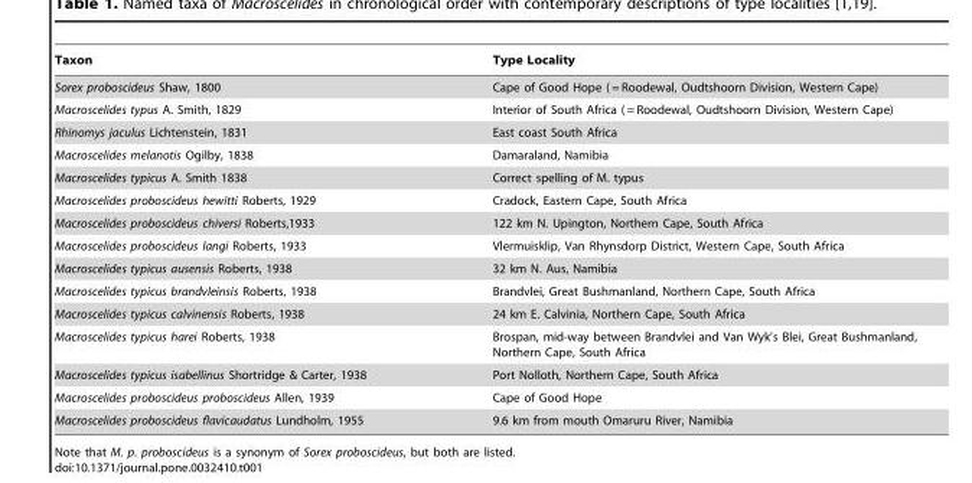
<table><thead><tr><td>Taxon</td><td>Type Locality</td></tr></thead><tbody><tr><td>Sorex proboscideus Shaw, 1800</td><td>Cape of Good Hope ( = Roodewal, Oudtshoorn Division, Western Cape)</td></tr><tr><td>Macroscelides typus A. Smith, 1829</td><td>Interior of South Africa ( = Roodewal, Oudtshoorn Division, Western Cape)</td></tr><tr><td>Rhinomys jaculus Lichtenstein, 1831</td><td>East coast South Africa</td></tr><tr><td>Macroscelides melanotis Ogilby, 1838</td><td>Damaraland, Namibia</td></tr><tr><td>Macroscelides typicus A. Smith 1838</td><td>Correct spelling of M. typus</td></tr><tr><td>Macroscelides proboscideus hewitti Roberts, 1929</td><td>Cradock, Eastern Cape, South Africa</td></tr><tr><td>Macroscelides proboscideus chiversi Roberts,1933</td><td>122 km N. Upington, Northern Cape, South Africa</td></tr><tr><td>Macroscelides proboscideus langi Roberts, 1933</td><td>Vlermuisklip, Van Rhynsdorp District, Western Cape, South Africa</td></tr><tr><td>Macroscelides typicus ausensis Roberts, 1938</td><td>32 km N. Aus, Namibia</td></tr><tr><td>Macroscelides typicus brandvleinsis Roberts, 1938</td><td>Brandvlei, Great Bushmanland, Northern Cape, South Africa</td></tr><tr><td>Macroscelides typicus calvinensis Roberts, 1938</td><td>24 km E. Calvinia, Northern Cape, South Africa</td></tr><tr><td>Macroscelides typicus harei Roberts, 1938</td><td>Brospan, mid-way between Brandvlei and Van Wyk’s Blei, Great Bushmanland, Northern Cape, South Africa</td></tr><tr><td>Macroscelides typicus isabellinus Shortridge &amp; Carter, 1938</td><td>Port Nolloth, Northern Cape, South Africa</td></tr><tr><td>Macroscelides proboscideus proboscideus Allen, 1939</td><td>Cape of Good Hope</td></tr><tr><td>Macroscelides proboscideus flavicaudatus Lundholm, 1955</td><td>9.6 km from mouth Omaruru River, Namibia</td></tr></tbody></table>